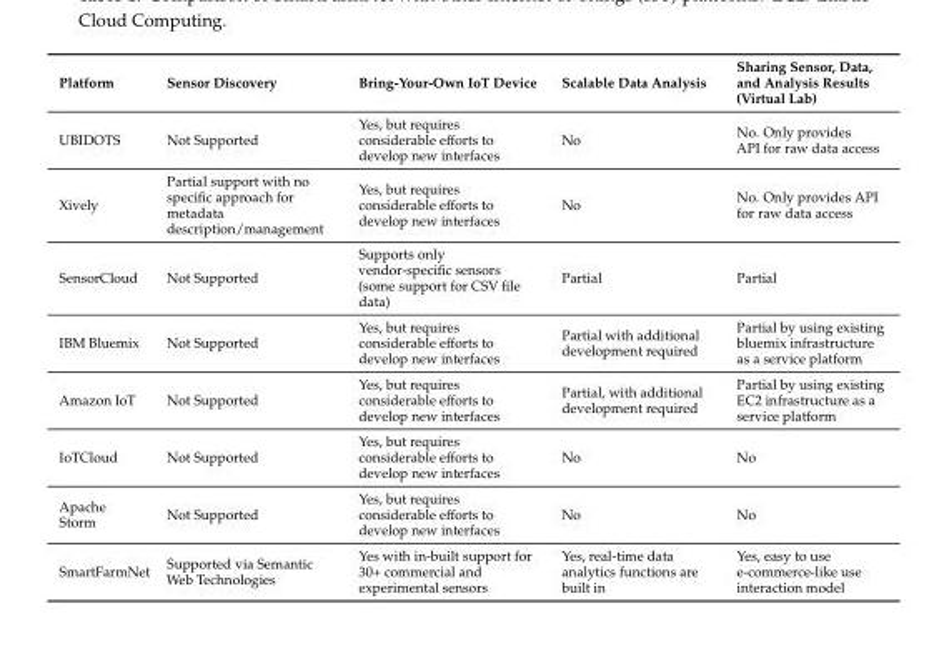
<table><thead><tr><td>Platform</td><td>Sensor Discovery</td><td>Bring-Your-Own IoT Device</td><td>Scalable Data Analysis</td><td>Sharing Sensor, Data, and Analysis Results (Virtual Lab)</td></tr></thead><tbody><tr><td>UBIDOTS</td><td>Not Supported</td><td>Yes, but requires considerable efforts to develop new interfaces</td><td>No</td><td>No. Only provides API for raw data access</td></tr><tr><td>Xively</td><td>Partial support with no specific approach for metadata description/management</td><td>Yes, but requires considerable efforts to develop new interfaces</td><td>No</td><td>No. Only provides API for raw data access</td></tr><tr><td>SensorCloud</td><td>Not Supported</td><td>Supports only vendor-specific sensors (some support for CSV file data)</td><td>Partial</td><td>Partial</td></tr><tr><td>IBM Bluemix</td><td>Not Supported</td><td>Yes, but requires considerable efforts to develop new interfaces</td><td>Partial with additional development required</td><td>Partial by using existing bluemix infrastructure as a service platform</td></tr><tr><td>Amazon IoT</td><td>Not Supported</td><td>Yes, but requires considerable efforts to develop new interfaces</td><td>Partial, with additional development required</td><td>Partial by using existing EC2 infrastructure as a service platform</td></tr><tr><td>IoTCloud</td><td>Not Supported</td><td>Yes, but requires considerable efforts to develop new interfaces</td><td>No</td><td>No</td></tr><tr><td>Apache Storm</td><td>Not Supported</td><td>Yes, but requires considerable efforts to develop new interfaces</td><td>No</td><td>No</td></tr><tr><td>SmartFarmNet</td><td>Supported via Semantic Web Technologies</td><td>Yes with in-built support for 30+ commercial and experimental sensors</td><td>Yes, real-time data analytics functions are built in</td><td>Yes, easy to use e-commerce-like use interaction model</td></tr></tbody></table>